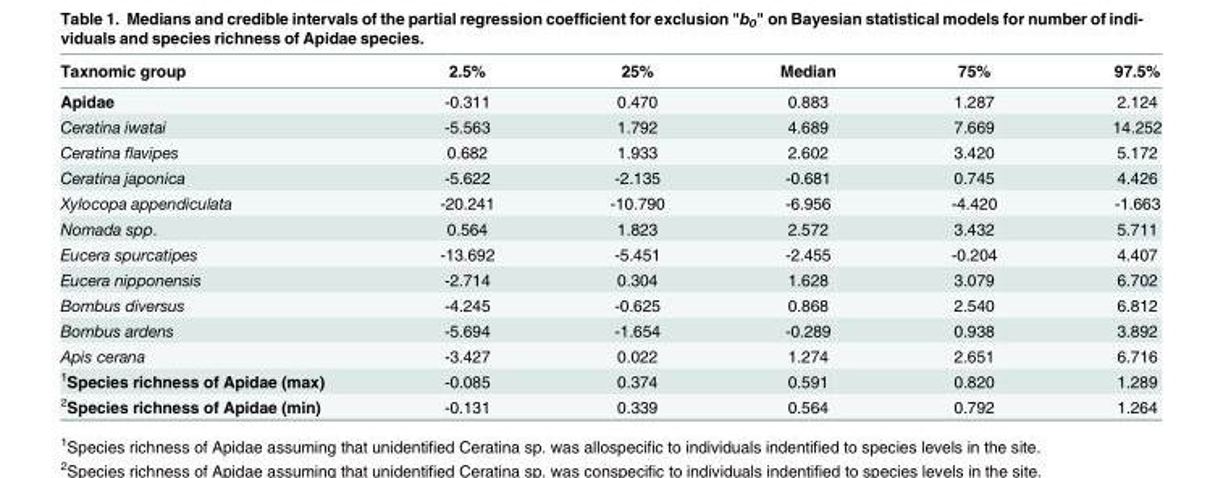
<table><thead><tr><td>Taxnomic group</td><td>2.5%</td><td>25%</td><td>Median</td><td>75%</td><td>97.5%</td></tr></thead><tbody><tr><td>Apidae</td><td>-0.311</td><td>0.470</td><td>0.883</td><td>1.287</td><td>2.124</td></tr><tr><td>Ceratina iwatai</td><td>-5.563</td><td>1.792</td><td>4.689</td><td>7.669</td><td>14.252</td></tr><tr><td>Ceratina flavipes</td><td>0.682</td><td>1.933</td><td>2.602</td><td>3.420</td><td>5.172</td></tr><tr><td>Ceratina japonica</td><td>-5.622</td><td>-2.135</td><td>-0.681</td><td>0.745</td><td>4.426</td></tr><tr><td>Xylocopa appendiculata</td><td>-20.241</td><td>-10.790</td><td>-6.956</td><td>-4.420</td><td>-1.663</td></tr><tr><td>Nomada spp.</td><td>0.564</td><td>1.823</td><td>2.572</td><td>3.432</td><td>5.711</td></tr><tr><td>Eucera spurcatipes</td><td>-13.692</td><td>-5.451</td><td>-2.455</td><td>-0.204</td><td>4.407</td></tr><tr><td>Eucera nipponensis</td><td>-2.714</td><td>0.304</td><td>1.628</td><td>3.079</td><td>6.702</td></tr><tr><td>Bombus diversus</td><td>-4.245</td><td>-0.625</td><td>0.868</td><td>2.540</td><td>6.812</td></tr><tr><td>Bombus ardens</td><td>-5.694</td><td>-1.654</td><td>-0.289</td><td>0.938</td><td>3.892</td></tr><tr><td>Apis cerana</td><td>-3.427</td><td>0.022</td><td>1.274</td><td>2.651</td><td>6.716</td></tr><tr><td><sup>1</sup>Species richness of Apidae (max)</td><td>-0.085</td><td>0.374</td><td>0.591</td><td>0.820</td><td>1.289</td></tr><tr><td><sup>2</sup>Species richness of Apidae (min)</td><td>-0.131</td><td>0.339</td><td>0.564</td><td>0.792</td><td>1.264</td></tr></tbody></table>